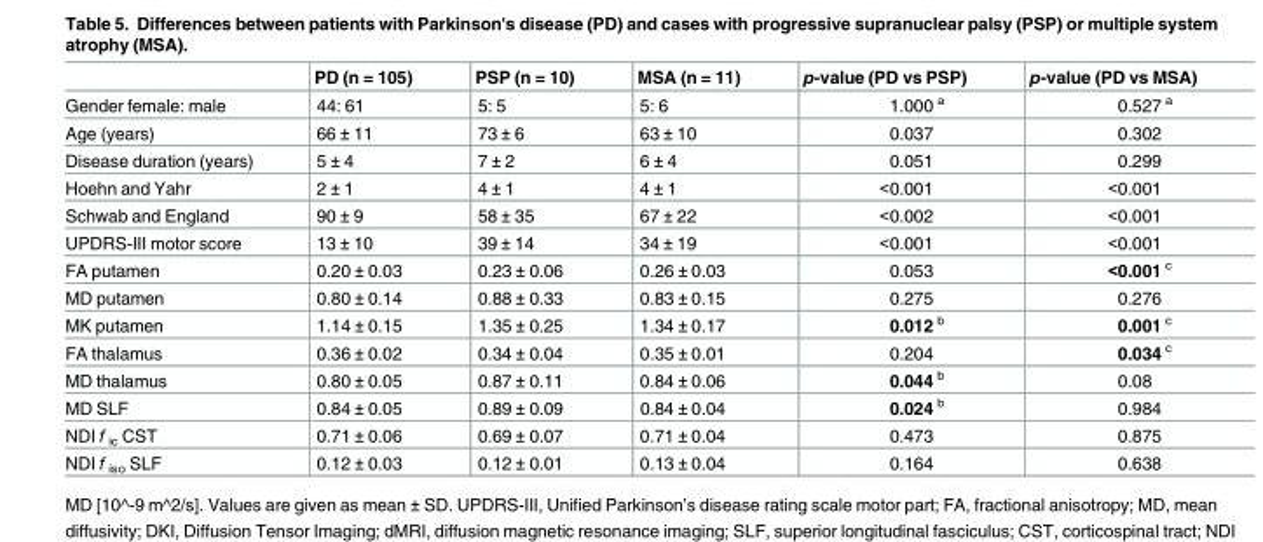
<table><thead><tr><td></td><td>PD (n = 105)</td><td>PSP (n = 10)</td><td>MSA (n = 11)</td><td>p-value (PD vs PSP)</td><td>p-value (PD vs MSA)</td></tr></thead><tbody><tr><td>Gender female: male</td><td>44: 61</td><td>5: 5</td><td>5: 6</td><td>1.000 <sup>a</sup></td><td>0.527 <sup>a</sup></td></tr><tr><td>Age (years)</td><td>66 ± 11</td><td>73 ± 6</td><td>63 ± 10</td><td>0.037</td><td>0.302</td></tr><tr><td>Disease duration (years)</td><td>5 ± 4</td><td>7 ± 2</td><td>6 ± 4</td><td>0.051</td><td>0.299</td></tr><tr><td>Hoehn and Yahr</td><td>2 ± 1</td><td>4 ± 1</td><td>4 ± 1</td><td>&lt;0.001</td><td>&lt;0.001</td></tr><tr><td>Schwab and England</td><td>90 ± 9</td><td>58 ± 35</td><td>67 ± 22</td><td>&lt;0.002</td><td>&lt;0.001</td></tr><tr><td>UPDRS-III motor score</td><td>13 ± 10</td><td>39 ± 14</td><td>34 ± 19</td><td>&lt;0.001</td><td>&lt;0.001</td></tr><tr><td>FA putamen</td><td>0.20 ± 0.03</td><td>0.23 ± 0.06</td><td>0.26 ± 0.03</td><td>0.053</td><td>&lt;0.001 <sup>c</sup></td></tr><tr><td>MD putamen</td><td>0.80 ± 0.14</td><td>0.88 ± 0.33</td><td>0.83 ± 0.15</td><td>0.275</td><td>0.276</td></tr><tr><td>MK putamen</td><td>1.14 ± 0.15</td><td>1.35 ± 0.25</td><td>1.34 ± 0.17</td><td>0.012 <sup>b</sup></td><td>0.001 <sup>c</sup></td></tr><tr><td>FA thalamus</td><td>0.36 ± 0.02</td><td>0.34 ± 0.04</td><td>0.35 ± 0.01</td><td>0.204</td><td>0.034 <sup>c</sup></td></tr><tr><td>MD thalamus</td><td>0.80 ± 0.05</td><td>0.87 ± 0.11</td><td>0.84 ± 0.06</td><td>0.044 <sup>b</sup></td><td>0.08</td></tr><tr><td>MD SLF</td><td>0.84 ± 0.05</td><td>0.89 ± 0.09</td><td>0.84 ± 0.04</td><td>0.024 <sup>b</sup></td><td>0.984</td></tr><tr><td>NDI f <sub>ic</sub> CST</td><td>0.71 ± 0.06</td><td>0.69 ± 0.07</td><td>0.71 ± 0.04</td><td>0.473</td><td>0.875</td></tr><tr><td>NDI f <sub>iso</sub> SLF</td><td>0.12 ± 0.03</td><td>0.12 ± 0.01</td><td>0.13 ± 0.04</td><td>0.164</td><td>0.638</td></tr></tbody></table>